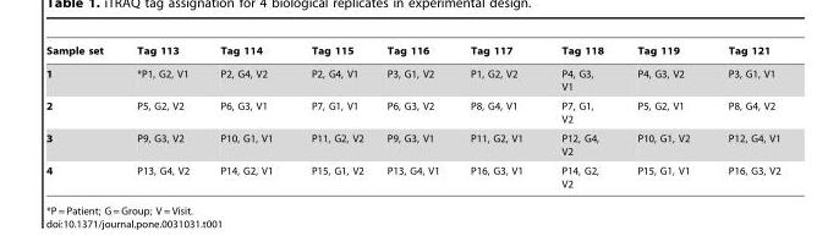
<table><thead><tr><td>Sample set</td><td>Tag 113</td><td>Tag 114</td><td>Tag 115</td><td>Tag 116</td><td>Tag 117</td><td>Tag 118</td><td>Tag 119</td><td>Tag 121</td></tr></thead><tbody><tr><td>1</td><td>*P1, G2, V1</td><td>P2, G4, V2</td><td>P2, G4, V1</td><td>P3, G1, V2</td><td>P1, G2, V2</td><td>P4, G3, V1</td><td>P4, G3, V2</td><td>P3, G1, V1</td></tr><tr><td>2</td><td>P5, G2, V2</td><td>P6, G3, V1</td><td>P7, G1, V1</td><td>P6, G3, V2</td><td>P8, G4, V1</td><td>P7, G1, V2</td><td>P5, G2, V1</td><td>P8, G4, V2</td></tr><tr><td>3</td><td>P9, G3, V2</td><td>P10, G1, V1</td><td>P11, G2, V2</td><td>P9, G3, V1</td><td>P11, G2, V1</td><td>P12, G4, V2</td><td>P10, G1, V2</td><td>P12, G4, V1</td></tr><tr><td>4</td><td>P13, G4, V2</td><td>P14, G2, V1</td><td>P15, G1, V2</td><td>P13, G4, V1</td><td>P16, G3, V1</td><td>P14, G2, V2</td><td>P15, G1, V1</td><td>P16, G3, V2</td></tr></tbody></table>